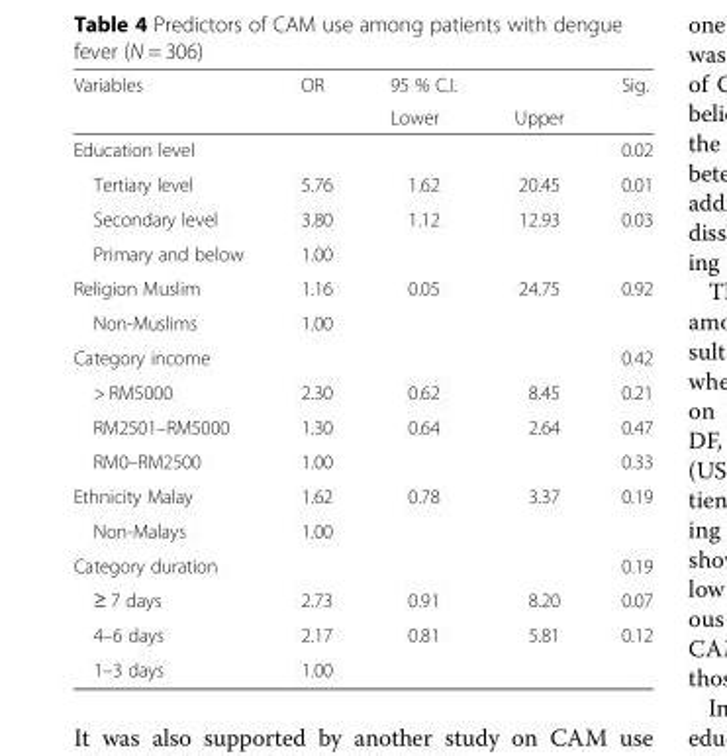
<table><thead><tr><td rowspan="2">Variables</td><td rowspan="2">OR</td><td rowspan="2">95 % C.I. Lower</td><td rowspan="2">Upper</td><td rowspan="2">Sig.</td></tr><tr></tr></thead><tbody><tr><td>Education level</td><td></td><td></td><td></td><td>0.02</td></tr><tr><td>Tertiary level</td><td>5.76</td><td>1.62</td><td>20.45</td><td>0.01</td></tr><tr><td>Secondary level</td><td>3.80</td><td>1.12</td><td>12.93</td><td>0.03</td></tr><tr><td>Primary and below</td><td>1.00</td><td></td><td></td><td></td></tr><tr><td>Religion Muslim</td><td>1.16</td><td>0.05</td><td>24.75</td><td>0.92</td></tr><tr><td>Non-Muslims</td><td>1.00</td><td></td><td></td><td></td></tr><tr><td>Category income</td><td></td><td></td><td></td><td>0.42</td></tr><tr><td>&gt; RM5000</td><td>2.30</td><td>0.62</td><td>8.45</td><td>0.21</td></tr><tr><td>RM2501–RM5000</td><td>1.30</td><td>0.64</td><td>2.64</td><td>0.47</td></tr><tr><td>RM0–RM2500</td><td>1.00</td><td></td><td></td><td>0.33</td></tr><tr><td>Ethnicity Malay</td><td>1.62</td><td>0.78</td><td>3.37</td><td>0.19</td></tr><tr><td>Non-Malays</td><td>1.00</td><td></td><td></td><td></td></tr><tr><td>Category duration</td><td></td><td></td><td></td><td>0.19</td></tr><tr><td>≥ 7 days</td><td>2.73</td><td>0.91</td><td>8.20</td><td>0.07</td></tr><tr><td>4–6 days</td><td>2.17</td><td>0.81</td><td>5.81</td><td>0.12</td></tr><tr><td>1–3 days</td><td>1.00</td><td></td><td></td><td></td></tr></tbody></table>